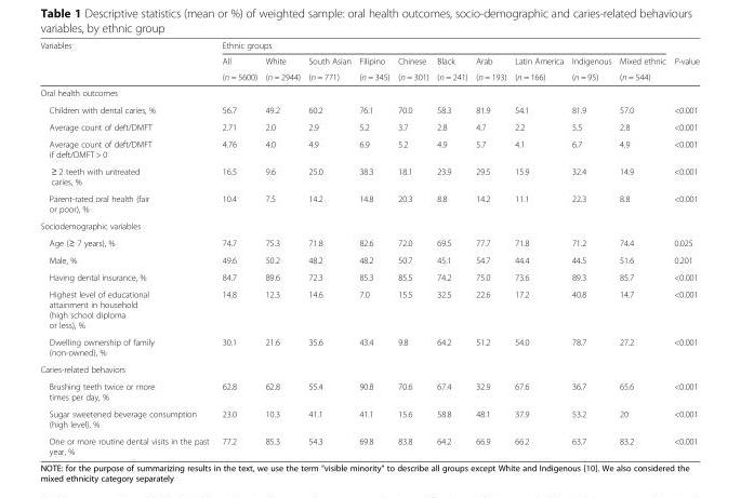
<table><thead><tr><td rowspan="3">Variables</td><td colspan="10">Ethnic groups</td><td rowspan="3">P-value</td></tr><tr><td rowspan="2">All (n = 5600)</td><td rowspan="2">White (n = 2944)</td><td rowspan="2">South Asian (n = 771)</td><td rowspan="2">Filipino (n = 345)</td><td rowspan="2">Chinese (n = 301)</td><td rowspan="2">Black (n = 241)</td><td rowspan="2">Arab (n = 193)</td><td rowspan="2">Latin America (n = 166)</td><td rowspan="2">Indigenous (n = 95)</td><td rowspan="2">Mixed ethnic (n = 544)</td></tr><tr></tr></thead><tbody><tr><td colspan="12">Oral health outcomes</td></tr><tr><td>Children with dental caries, %</td><td>56.7</td><td>49.2</td><td>60.2</td><td>76.1</td><td>70.0</td><td>58.3</td><td>81.9</td><td>54.1</td><td>81.9</td><td>57.0</td><td>&lt;0.001</td></tr><tr><td>Average count of deft/DMFT</td><td>2.71</td><td>2.0</td><td>2.9</td><td>5.2</td><td>3.7</td><td>2.8</td><td>4.7</td><td>2.2</td><td>5.5</td><td>2.8</td><td>&lt;0.001</td></tr><tr><td>Average count of deft/DMFT if deft/DMFT &gt; 0</td><td>4.76</td><td>4.0</td><td>4.9</td><td>6.9</td><td>5.2</td><td>4.9</td><td>5.7</td><td>4.1</td><td>6.7</td><td>4.9</td><td>&lt;0.001</td></tr><tr><td>≥ 2 teeth with untreated caries, %</td><td>16.5</td><td>9.6</td><td>25.0</td><td>38.3</td><td>18.1</td><td>23.9</td><td>29.5</td><td>15.9</td><td>32.4</td><td>14.9</td><td>&lt;0.001</td></tr><tr><td>Parent-rated oral health (fair or poor), %</td><td>10.4</td><td>7.5</td><td>14.2</td><td>14.8</td><td>20.3</td><td>8.8</td><td>14.2</td><td>11.1</td><td>22.3</td><td>8.8</td><td>&lt;0.001</td></tr><tr><td colspan="12">Sociodemographic variables</td></tr><tr><td>Age (≥ 7 years), %</td><td>74.7</td><td>75.3</td><td>71.8</td><td>82.6</td><td>72.0</td><td>69.5</td><td>77.7</td><td>71.8</td><td>71.2</td><td>74.4</td><td>0.025</td></tr><tr><td>Male, %</td><td>49.6</td><td>50.2</td><td>48.2</td><td>48.2</td><td>50.7</td><td>45.1</td><td>54.7</td><td>44.4</td><td>44.5</td><td>51.6</td><td>0.201</td></tr><tr><td>Having dental insurance, %</td><td>84.7</td><td>89.6</td><td>72.3</td><td>85.3</td><td>85.5</td><td>74.2</td><td>75.0</td><td>73.6</td><td>89.3</td><td>85.7</td><td>&lt;0.001</td></tr><tr><td>Highest level of educational attainment in household (high school diploma or less), %</td><td>14.8</td><td>12.3</td><td>14.6</td><td>7.0</td><td>15.5</td><td>32.5</td><td>22.6</td><td>17.2</td><td>40.8</td><td>14.7</td><td>&lt;0.001</td></tr><tr><td>Dwelling ownership of family (non-owned), %</td><td>30.1</td><td>21.6</td><td>35.6</td><td>43.4</td><td>9.8</td><td>64.2</td><td>51.2</td><td>54.0</td><td>78.7</td><td>27.2</td><td>&lt;0.001</td></tr><tr><td colspan="12">Caries-related behaviors</td></tr><tr><td>Brushing teeth twice or more times per day, %</td><td>62.8</td><td>62.8</td><td>55.4</td><td>90.8</td><td>70.6</td><td>67.4</td><td>32.9</td><td>67.6</td><td>36.7</td><td>65.6</td><td>&lt;0.001</td></tr><tr><td>Sugar sweetened beverage consumption (high level), %</td><td>23.0</td><td>10.3</td><td>41.1</td><td>41.1</td><td>15.6</td><td>58.8</td><td>48.1</td><td>37.9</td><td>53.2</td><td>20</td><td>&lt;0.001</td></tr><tr><td>One or more routine dental visits in the past year, %</td><td>77.2</td><td>85.3</td><td>54.3</td><td>69.8</td><td>83.8</td><td>64.2</td><td>66.9</td><td>66.2</td><td>63.7</td><td>83.2</td><td>&lt;0.001</td></tr></tbody></table>